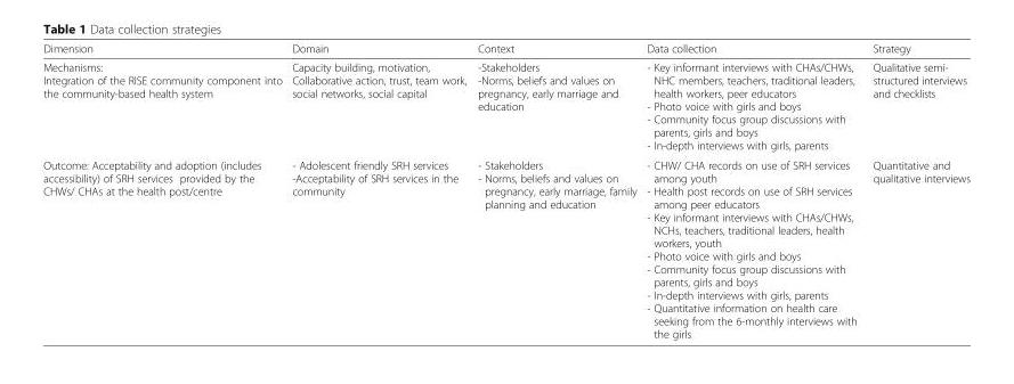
<table><thead><tr><td>Dimension</td><td>Domain</td><td>Context</td><td>Data collection</td><td>Strategy</td></tr></thead><tbody><tr><td>Mechanisms: Integration of the RISE community component into the community-based health system</td><td>Capacity building, motivation, Collaborative action, trust, team work, social networks, social capital</td><td>-Stakeholders -Norms, beliefs and values on pregnancy, early marriage and education</td><td>- Key informant interviews with CHAs/CHWs, NHC members, teachers, traditional leaders, health workers, peer educators - Photo voice with girls and boys - Community focus group discussions with parents, girls and boys - In-depth interviews with girls, parents</td><td>Qualitative semi- structured interviews and checklists</td></tr><tr><td>Outcome: Acceptability and adoption (includes accessibility) of SRH services provided by the CHWs/ CHAs at the health post/centre</td><td>- Adolescent friendly SRH services -Acceptability of SRH services in the community</td><td>- Stakeholders - Norms, beliefs and values on pregnancy, early marriage, family planning and education</td><td>- CHW/ CHA records on use of SRH services among youth - Health post records on use of SRH services among peer educators - Key informant interviews with CHAs/CHWs, NCHs, teachers, traditional leaders, health workers, youth - Photo voice with girls and boys - Community focus group discussions with parents, girls and boys - In-depth interviews with girls, parents - Quantitative information on health care seeking from the 6-monthly interviews with the girls</td><td>Quantitative and qualitative interviews</td></tr></tbody></table>